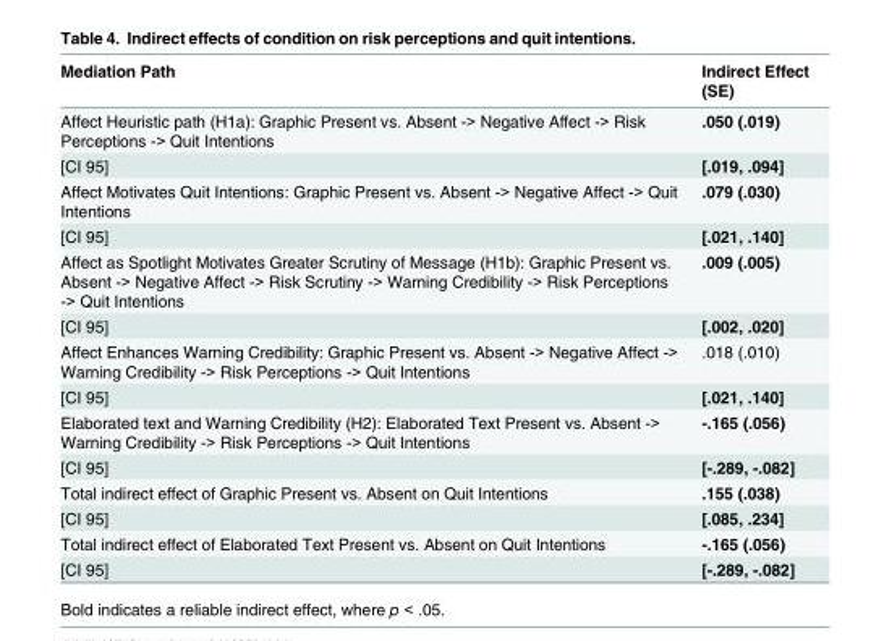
<table><thead><tr><td>Mediation Path</td><td>Indirect Effect (SE)</td></tr></thead><tbody><tr><td>Affect Heuristic path (H1a): Graphic Present vs. Absent -&gt; Negative Affect -&gt; Risk Perceptions -&gt; Quit Intentions</td><td>.050 (.019)</td></tr><tr><td>[CI 95]</td><td>[.019, .094]</td></tr><tr><td>Affect Motivates Quit Intentions: Graphic Present vs. Absent -&gt; Negative Affect -&gt; Quit Intentions</td><td>.079 (.030)</td></tr><tr><td>[CI 95]</td><td>[.021, .140]</td></tr><tr><td>Affect as Spotlight Motivates Greater Scrutiny of Message (H1b): Graphic Present vs. Absent -&gt; Negative Affect -&gt; Risk Scrutiny -&gt; Warning Credibility -&gt; Risk Perceptions -&gt; Quit Intentions</td><td>.009 (.005)</td></tr><tr><td>[CI 95]</td><td>[.002, .020]</td></tr><tr><td>Affect Enhances Warning Credibility: Graphic Present vs. Absent -&gt; Negative Affect -&gt; Warning Credibility -&gt; Risk Perceptions -&gt; Quit Intentions</td><td>.018 (.010)</td></tr><tr><td>[CI 95]</td><td>[.021, .140]</td></tr><tr><td>Elaborated text and Warning Credibility (H2): Elaborated Text Present vs. Absent -&gt; Warning Credibility -&gt; Risk Perceptions -&gt; Quit Intentions</td><td>-.165 (.056)</td></tr><tr><td>[CI 95]</td><td>[-.289, -.082]</td></tr><tr><td>Total indirect effect of Graphic Present vs. Absent on Quit Intentions</td><td>.155 (.038)</td></tr><tr><td>[CI 95]</td><td>[.085, .234]</td></tr><tr><td>Total indirect effect of Elaborated Text Present vs. Absent on Quit Intentions</td><td>-.165 (.056)</td></tr><tr><td>[CI 95]</td><td>[-.289, -.082]</td></tr></tbody></table>